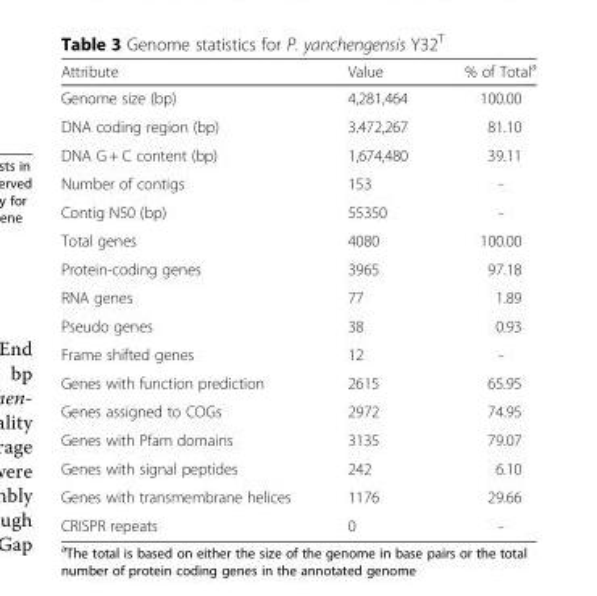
<table><thead><tr><td>Attribute</td><td>Value</td><td>% of Total<sup>a</sup></td></tr></thead><tbody><tr><td>Genome size (bp)</td><td>4,281,464</td><td>100.00</td></tr><tr><td>DNA coding region (bp)</td><td>3.472,267</td><td>81.10</td></tr><tr><td>DNA G + C content (bp)</td><td>1,674,480</td><td>39.11</td></tr><tr><td>Number of contigs</td><td>153</td><td>-</td></tr><tr><td>Contig N50 (bp)</td><td>55350</td><td>-</td></tr><tr><td>Total genes</td><td>4080</td><td>100.00</td></tr><tr><td>Protein-coding genes</td><td>3965</td><td>97.18</td></tr><tr><td>RNA genes</td><td>77</td><td>1.89</td></tr><tr><td>Pseudo genes</td><td>38</td><td>0.93</td></tr><tr><td>Frame shifted genes</td><td>12</td><td>-</td></tr><tr><td>Genes with function prediction</td><td>2615</td><td>65.95</td></tr><tr><td>Genes assigned to COGs</td><td>2972</td><td>74.95</td></tr><tr><td>Genes with Pfam domains</td><td>3135</td><td>79.07</td></tr><tr><td>Genes with signal peptides</td><td>242</td><td>6.10</td></tr><tr><td>Genes with transmembrane helices</td><td>1176</td><td>29.66</td></tr><tr><td>CRISPR repeats</td><td>0</td><td>-</td></tr></tbody></table>